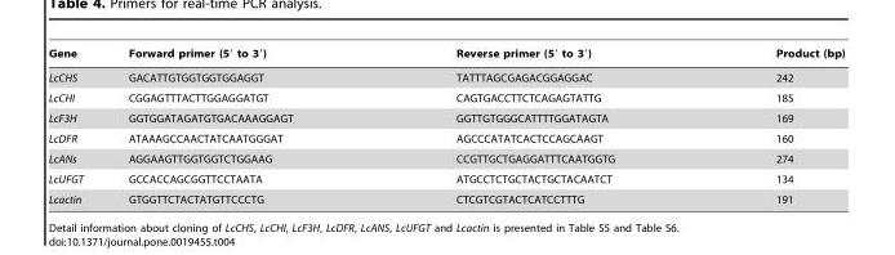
<table><thead><tr><td>Gene</td><td>Forward primer (5′ to 3′)</td><td>Reverse primer (5′ to 3′)</td><td>Product (bp)</td></tr></thead><tbody><tr><td>LcCHS</td><td>GACATTGTGGTGGTGGAGGT</td><td>TATTTAGCGAGACGGAGGAC</td><td>242</td></tr><tr><td>LcCHI</td><td>CGGAGTTTACTTGGAGGATGT</td><td>CAGTGACCTTCTCAGAGTATTG</td><td>185</td></tr><tr><td>LcF3H</td><td>GGTGGATAGATGTGACAAAGGAGT</td><td>GGTTGTGGGCATTTTGGATAGTA</td><td>169</td></tr><tr><td>LcDFR</td><td>ATAAAGCCAACTATCAATGGGAT</td><td>AGCCCATATCACTCCAGCAAGT</td><td>160</td></tr><tr><td>LcANs</td><td>AGGAAGTTGGTGGTCTGGAAG</td><td>CCGTTGCTGAGGATTTCAATGGTG</td><td>274</td></tr><tr><td>LcUFGT</td><td>GCCACCAGCGGTTCCTAATA</td><td>ATGCCTCTGCTACTGCTACAATCT</td><td>134</td></tr><tr><td>Lcactin</td><td>GTGGTTCTACTATGTTCCCTG</td><td>CTCGTCGTACTCATCCTTTG</td><td>191</td></tr></tbody></table>